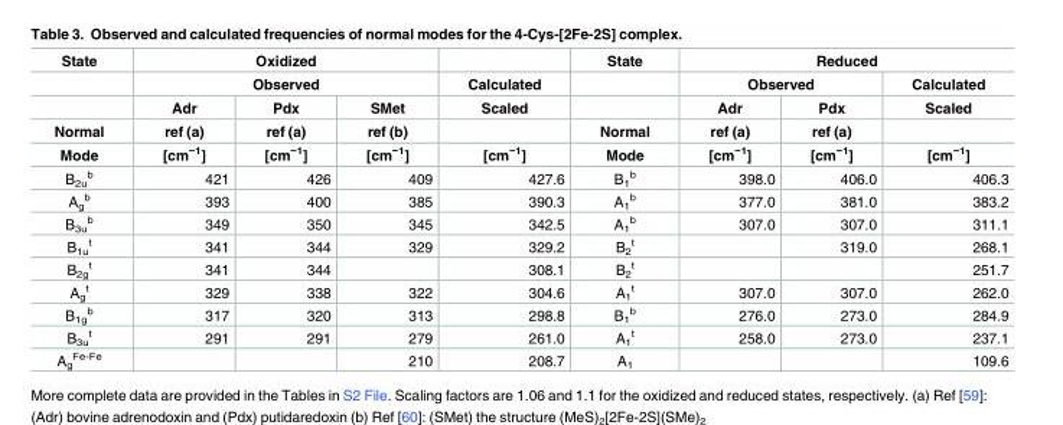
<table><thead><tr><td rowspan="5">State Normal Mode</td><td rowspan="2" colspan="3">Oxidized Observed</td><td rowspan="5">Calculated Scaled [cm<sup>−1</sup>]</td><td rowspan="5">State Normal Mode</td><td colspan="3">Reduced</td></tr><tr><td colspan="2">Observed</td><td rowspan="4">Calculated Scaled [cm<sup>−1</sup>]</td></tr><tr><td rowspan="3">Adr ref (a) [cm<sup>−1</sup>]</td><td rowspan="3">Pdx ref (a) [cm<sup>−1</sup>]</td><td rowspan="3">SMet ref (b) [cm<sup>−1</sup>]</td><td rowspan="3">Adr ref (a) [cm<sup>−1</sup>]</td><td rowspan="3">Pdx ref (a) [cm<sup>−1</sup>]</td></tr><tr></tr><tr></tr></thead><tbody><tr><td>B<sub>2u</sub> <sup>b</sup></td><td>421</td><td>426</td><td>409</td><td>427.6</td><td>B<sub>1</sub> <sup>b</sup></td><td>398.0</td><td>406.0</td><td>406.3</td></tr><tr><td>A<sub>g</sub> <sup>b</sup></td><td>393</td><td>400</td><td>385</td><td>390.3</td><td>A<sub>1</sub> <sup>b</sup></td><td>377.0</td><td>381.0</td><td>383.2</td></tr><tr><td>B<sub>3u</sub> <sup>b</sup></td><td>349</td><td>350</td><td>345</td><td>342.5</td><td>A<sub>1</sub> <sup>b</sup></td><td>307.0</td><td>307.0</td><td>311.1</td></tr><tr><td>B<sub>1u</sub> <sup>t</sup></td><td>341</td><td>344</td><td>329</td><td>329.2</td><td>B<sub>2</sub> <sup>t</sup></td><td></td><td>319.0</td><td>268.1</td></tr><tr><td>B<sub>2g</sub> <sup>t</sup></td><td>341</td><td>344</td><td></td><td>308.1</td><td>B<sub>2</sub> <sup>t</sup></td><td></td><td></td><td>251.7</td></tr><tr><td>A<sub>g</sub> <sup>t</sup></td><td>329</td><td>338</td><td>322</td><td>304.6</td><td>A<sub>1</sub> <sup>t</sup></td><td>307.0</td><td>307.0</td><td>262.0</td></tr><tr><td>B<sub>1g</sub> <sup>b</sup></td><td>317</td><td>320</td><td>313</td><td>298.8</td><td>B<sub>1</sub> <sup>b</sup></td><td>276.0</td><td>273.0</td><td>284.9</td></tr><tr><td>B<sub>3u</sub> <sup>t</sup></td><td>291</td><td>291</td><td>279</td><td>261.0</td><td>A<sub>1</sub> <sup>t</sup></td><td>258.0</td><td>273.0</td><td>237.1</td></tr><tr><td>A<sub>g</sub> <sup>Fe-Fe</sup></td><td></td><td></td><td>210</td><td>208.7</td><td>A<sub>1</sub></td><td></td><td></td><td>109.6</td></tr></tbody></table>